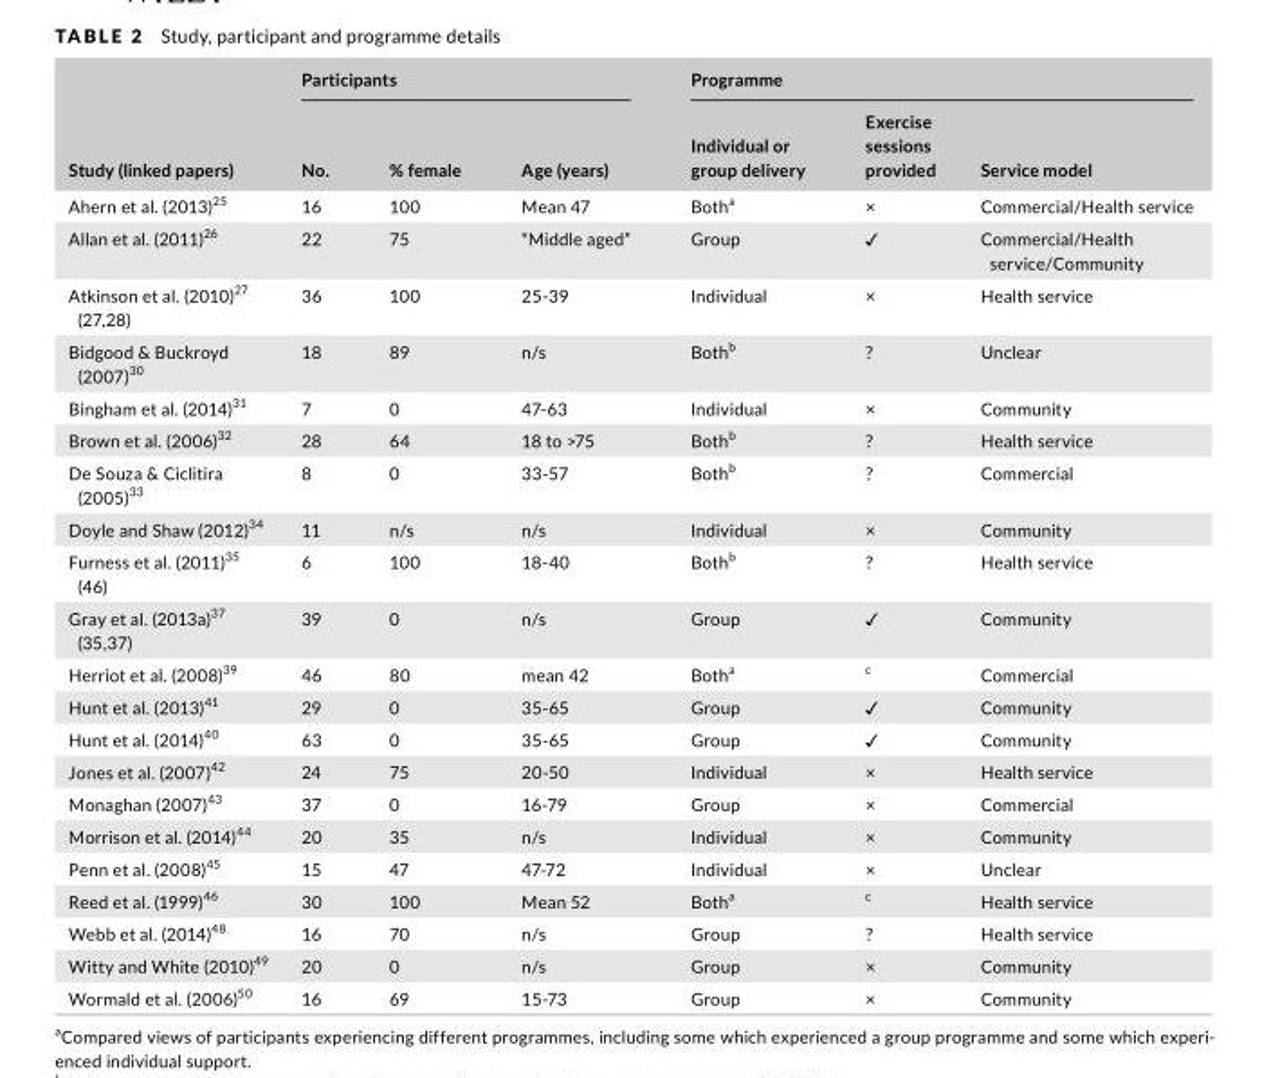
<table><thead><tr><td rowspan="2">Study (linked papers)</td><td colspan="3">Participants</td><td colspan="3">Programme</td></tr><tr><td>No.</td><td>% female</td><td>Age (years)</td><td>Individual or group delivery</td><td>Exercise sessions provided</td><td>Service model</td></tr></thead><tbody><tr><td>Ahern et al. (2013)<sup>25</sup></td><td>16</td><td>100</td><td>Mean 47</td><td>Both<sup>a</sup></td><td>×</td><td>Commercial/Health service</td></tr><tr><td>Allan et al. (2011)<sup>26</sup></td><td>22</td><td>75</td><td>“Middle aged”</td><td>Group</td><td>✓</td><td>Commercial/Health service/Community</td></tr><tr><td>Atkinson et al. (2010)<sup>27</sup> (27,28)</td><td>36</td><td>100</td><td>25- 39</td><td>Individual</td><td>×</td><td>Health service</td></tr><tr><td>Bidgood &amp; Buckroyd (2007)<sup>30</sup></td><td>18</td><td>89</td><td>n/s</td><td>Both<sup>b</sup></td><td>?</td><td>Unclear</td></tr><tr><td>Bingham et al. (2014)<sup>31</sup></td><td>7</td><td>0</td><td>47- 63</td><td>Individual</td><td>×</td><td>Community</td></tr><tr><td>Brown et al. (2006)<sup>32</sup></td><td>28</td><td>64</td><td>18 to &gt;75</td><td>Both<sup>b</sup></td><td>?</td><td>Health service</td></tr><tr><td>De Souza &amp; Ciclitira (2005)<sup>33</sup></td><td>8</td><td>0</td><td>33- 57</td><td>Both<sup>b</sup></td><td>?</td><td>Commercial</td></tr><tr><td>Doyle and Shaw (2012)<sup>34</sup></td><td>11</td><td>n/s</td><td>n/s</td><td>Individual</td><td>×</td><td>Community</td></tr><tr><td>Furness et al. (2011)<sup>35</sup> (46)</td><td>6</td><td>100</td><td>18- 40</td><td>Both<sup>b</sup></td><td>?</td><td>Health service</td></tr><tr><td>Gray et al. (2013a)<sup>37</sup> (35,37)</td><td>39</td><td>0</td><td>n/s</td><td>Group</td><td>✓</td><td>Community</td></tr><tr><td>Herriot et al. (2008)<sup>39</sup></td><td>46</td><td>80</td><td>mean 42</td><td>Both<sup>a</sup></td><td>c</td><td>Commercial</td></tr><tr><td>Hunt et al. (2013)<sup>41</sup></td><td>29</td><td>0</td><td>35- 65</td><td>Group</td><td>✓</td><td>Community</td></tr><tr><td>Hunt et al. (2014)<sup>40</sup></td><td>63</td><td>0</td><td>35- 65</td><td>Group</td><td>✓</td><td>Community</td></tr><tr><td>Jones et al. (2007)<sup>42</sup></td><td>24</td><td>75</td><td>20- 50</td><td>Individual</td><td>×</td><td>Health service</td></tr><tr><td>Monaghan (2007)<sup>43</sup></td><td>37</td><td>0</td><td>16- 79</td><td>Group</td><td>×</td><td>Commercial</td></tr><tr><td>Morrison et al. (2014)<sup>44</sup></td><td>20</td><td>35</td><td>n/s</td><td>Individual</td><td>×</td><td>Community</td></tr><tr><td>Penn et al. (2008)<sup>45</sup></td><td>15</td><td>47</td><td>47- 72</td><td>Individual</td><td>×</td><td>Unclear</td></tr><tr><td>Reed et al. (1999)<sup>46</sup></td><td>30</td><td>100</td><td>Mean 52</td><td>Both<sup>a</sup></td><td>c</td><td>Health service</td></tr><tr><td>Webb et al. (2014)<sup>48</sup></td><td>16</td><td>70</td><td>n/s</td><td>Group</td><td>?</td><td>Health service</td></tr><tr><td>Witty and White (2010)<sup>49</sup></td><td>20</td><td>0</td><td>n/s</td><td>Group</td><td>×</td><td>Community</td></tr><tr><td>Wormald et al. (2006)<sup>50</sup></td><td>16</td><td>69</td><td>15- 73</td><td>Group</td><td>×</td><td>Community</td></tr></tbody></table>